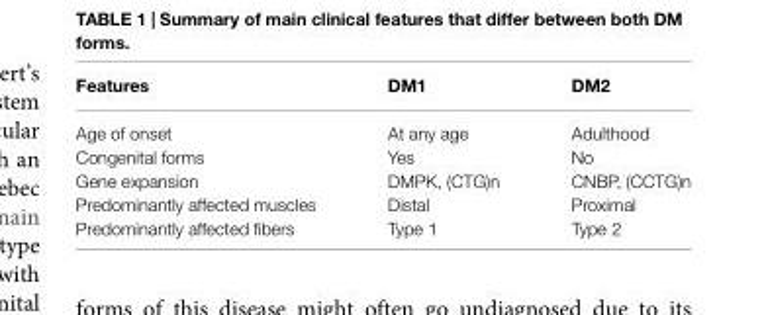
<table><thead><tr><td>Features</td><td>DM1</td><td>DM2</td></tr></thead><tbody><tr><td>Age of onset</td><td>At any age</td><td>Adulthood</td></tr><tr><td>Congenital forms</td><td>Yes</td><td>No</td></tr><tr><td>Gene expansion</td><td>DMPK, (CTG)n</td><td>CNBP, (CCTG)n</td></tr><tr><td>Predominantly affected muscles</td><td>Distal</td><td>Proximal</td></tr><tr><td>Predominantly affected fibers</td><td>Type 1</td><td>Type 2</td></tr></tbody></table>